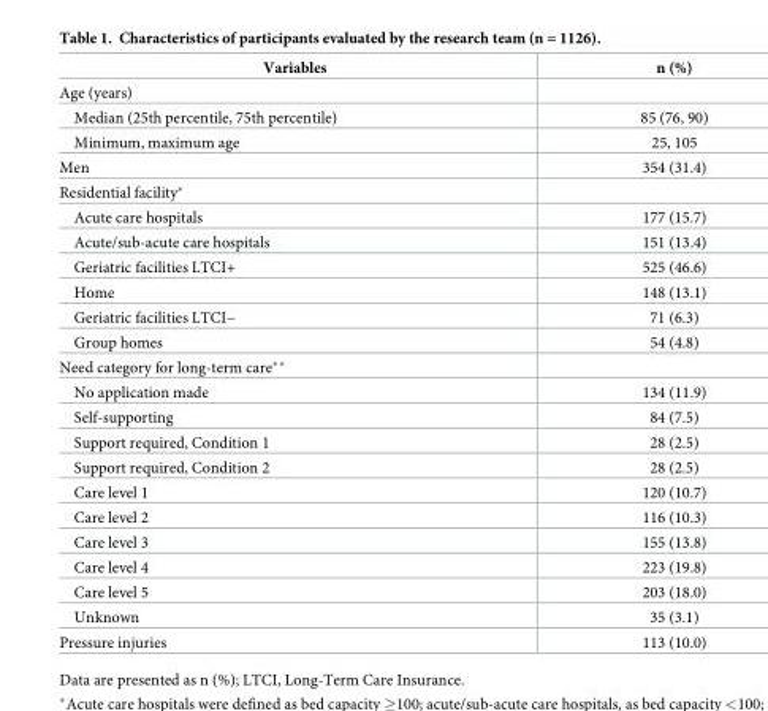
<table><thead><tr><td>Variables</td><td>n (%)</td></tr></thead><tbody><tr><td colspan="2">Age (years)</td></tr><tr><td>Median (25th percentile, 75th percentile)</td><td>85 (76, 90)</td></tr><tr><td>Minimum, maximum age</td><td>25, 105</td></tr><tr><td>Men</td><td>354 (31.4)</td></tr><tr><td colspan="2">Residential facility*</td></tr><tr><td>Acute care hospitals</td><td>177 (15.7)</td></tr><tr><td>Acute/sub-acute care hospitals</td><td>151 (13.4)</td></tr><tr><td>Geriatric facilities LTCI+</td><td>525 (46.6)</td></tr><tr><td>Home</td><td>148 (13.1)</td></tr><tr><td>Geriatric facilities LTCI−</td><td>71 (6.3)</td></tr><tr><td>Group homes</td><td>54 (4.8)</td></tr><tr><td colspan="2">Need category for long-term care**</td></tr><tr><td>No application made</td><td>134 (11.9)</td></tr><tr><td>Self-supporting</td><td>84 (7.5)</td></tr><tr><td>Support required, Condition 1</td><td>28 (2.5)</td></tr><tr><td>Support required, Condition 2</td><td>28 (2.5)</td></tr><tr><td>Care level 1</td><td>120 (10.7)</td></tr><tr><td>Care level 2</td><td>116 (10.3)</td></tr><tr><td>Care level 3</td><td>155 (13.8)</td></tr><tr><td>Care level 4</td><td>223 (19.8)</td></tr><tr><td>Care level 5</td><td>203 (18.0)</td></tr><tr><td>Unknown</td><td>35 (3.1)</td></tr><tr><td>Pressure injuries</td><td>113 (10.0)</td></tr></tbody></table>